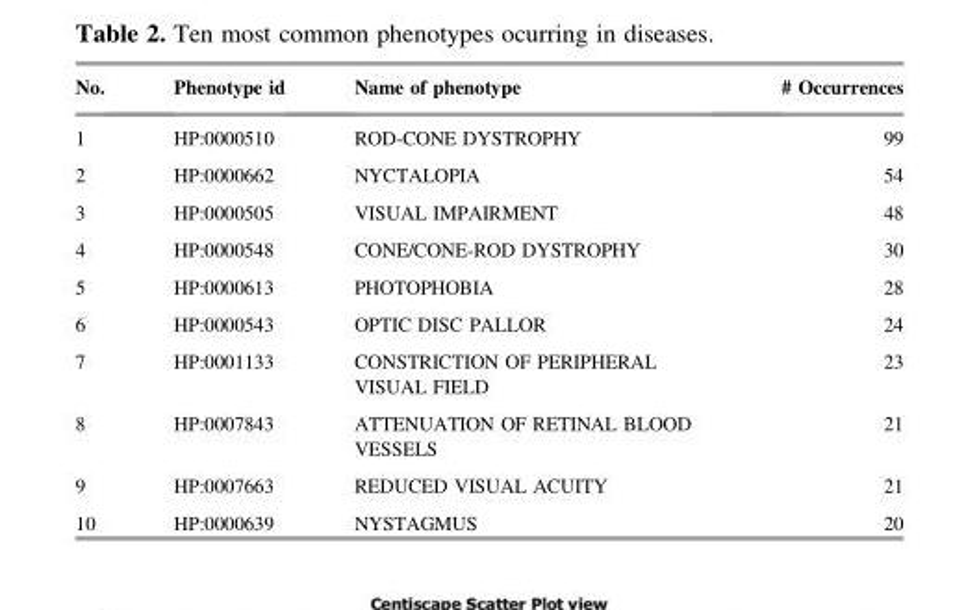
<table><thead><tr><td>No.</td><td>Phenotype id</td><td>Name of phenotype</td><td># Occurrences</td></tr></thead><tbody><tr><td>1</td><td>HP:0000510</td><td>ROD-CONE DYSTROPHY</td><td>99</td></tr><tr><td>2</td><td>HP:0000662</td><td>NYCTALOPIA</td><td>54</td></tr><tr><td>3</td><td>HP:0000505</td><td>VISUAL IMPAIRMENT</td><td>48</td></tr><tr><td>4</td><td>HP:0000548</td><td>CONE/CONE-ROD DYSTROPHY</td><td>30</td></tr><tr><td>5</td><td>HP:0000613</td><td>PHOTOPHOBIA</td><td>28</td></tr><tr><td>6</td><td>HP:0000543</td><td>OPTIC DISC PALLOR</td><td>24</td></tr><tr><td>7</td><td>HP:0001133</td><td>CONSTRICTION OF PERIPHERAL VISUAL FIELD</td><td>23</td></tr><tr><td>8</td><td>HP:0007843</td><td>ATTENUATION OF RETINAL BLOOD VESSELS</td><td>21</td></tr><tr><td>9</td><td>HP:0007663</td><td>REDUCED VISUAL ACUITY</td><td>21</td></tr><tr><td>10</td><td>HP:0000639</td><td>NYSTAGMUS</td><td>20</td></tr></tbody></table>